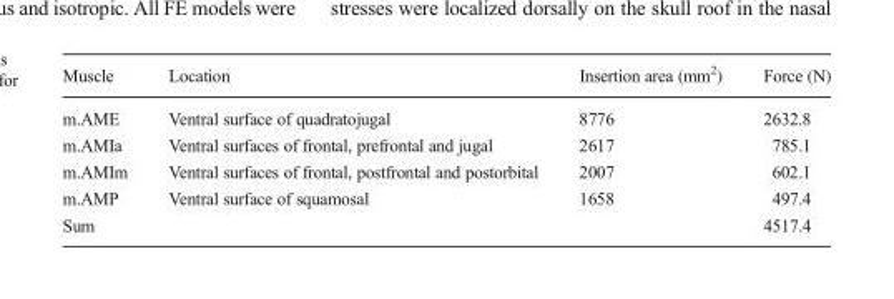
<table><thead><tr><td>Muscle</td><td>Location</td><td>Insertion area (mm<sup>2</sup>)</td><td>Force (N)</td></tr></thead><tbody><tr><td>m.AME</td><td>Ventral surface of quadratojugal</td><td>8776</td><td>2632.8</td></tr><tr><td>m.AMIa</td><td>Ventral surfaces of frontal, prefrontal and jugal</td><td>2617</td><td>785.1</td></tr><tr><td>m.AMIm</td><td>Ventral surfaces of frontal, postfrontal and postorbital</td><td>2007</td><td>602.1</td></tr><tr><td>m.AMP</td><td>Ventral surface of squamosal</td><td>1658</td><td>497.4</td></tr><tr><td>Sum</td><td></td><td></td><td>4517.4</td></tr></tbody></table>